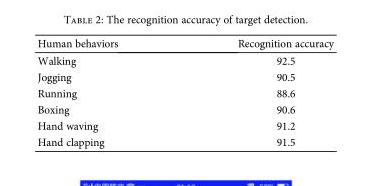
<table><thead><tr><td>Human behaviors</td><td>Recognition accuracy</td></tr></thead><tbody><tr><td>Walking</td><td>92.5</td></tr><tr><td>Jogging</td><td>90.5</td></tr><tr><td>Running</td><td>88.6</td></tr><tr><td>Boxing</td><td>90.6</td></tr><tr><td>Hand waving</td><td>91.2</td></tr><tr><td>Hand clapping</td><td>91.5</td></tr></tbody></table>